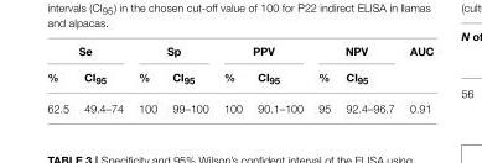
<table><thead><tr><td colspan="2">Se</td><td colspan="2">Sp</td><td colspan="2">PPV</td><td colspan="2">NPV</td><td rowspan="2">AUC</td></tr><tr><td>%</td><td>CI<sub>95</sub></td><td>%</td><td>CI<sub>95</sub></td><td>%</td><td>CI<sub>95</sub></td><td>%</td><td>CI<sub>95</sub></td></tr></thead><tbody><tr><td>62.5</td><td>49.4–74</td><td>100</td><td>99–100</td><td>100</td><td>90.1–100</td><td>95</td><td>92.4–96.7</td><td>0.91</td></tr></tbody></table>